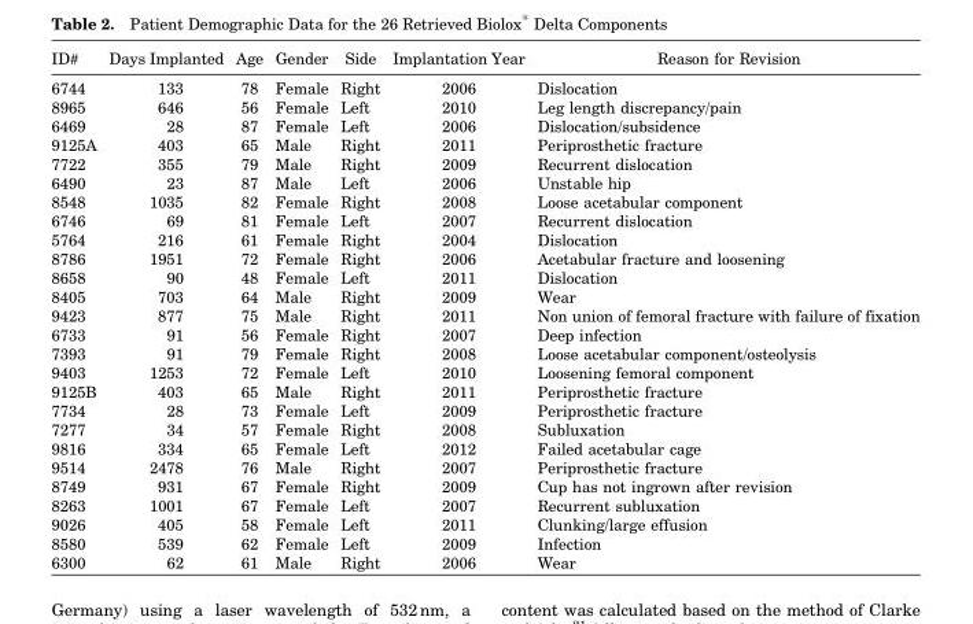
<table><thead><tr><td>ID#</td><td>Days Implanted</td><td>Age</td><td>Gender</td><td>Side</td><td>Implantation Year</td><td>Reason for Revision</td></tr></thead><tbody><tr><td>6744</td><td>133</td><td>78</td><td>Female</td><td>Right</td><td>2006</td><td>Dislocation</td></tr><tr><td>8965</td><td>646</td><td>56</td><td>Female</td><td>Left</td><td>2010</td><td>Leg length discrepancy/pain</td></tr><tr><td>6469</td><td>28</td><td>87</td><td>Female</td><td>Left</td><td>2006</td><td>Dislocation/subsidence</td></tr><tr><td>9125A</td><td>403</td><td>65</td><td>Male</td><td>Right</td><td>2011</td><td>Periprosthetic fracture</td></tr><tr><td>7722</td><td>355</td><td>79</td><td>Male</td><td>Right</td><td>2009</td><td>Recurrent dislocation</td></tr><tr><td>6490</td><td>23</td><td>87</td><td>Male</td><td>Left</td><td>2006</td><td>Unstable hip</td></tr><tr><td>8548</td><td>1035</td><td>82</td><td>Female</td><td>Right</td><td>2008</td><td>Loose acetabular component</td></tr><tr><td>6746</td><td>69</td><td>81</td><td>Female</td><td>Left</td><td>2007</td><td>Recurrent dislocation</td></tr><tr><td>5764</td><td>216</td><td>61</td><td>Female</td><td>Right</td><td>2004</td><td>Dislocation</td></tr><tr><td>8786</td><td>1951</td><td>72</td><td>Female</td><td>Right</td><td>2006</td><td>Acetabular fracture and loosening</td></tr><tr><td>8658</td><td>90</td><td>48</td><td>Female</td><td>Left</td><td>2011</td><td>Dislocation</td></tr><tr><td>8405</td><td>703</td><td>64</td><td>Male</td><td>Right</td><td>2009</td><td>Wear</td></tr><tr><td>9423</td><td>877</td><td>75</td><td>Male</td><td>Right</td><td>2011</td><td>Non union of femoral fracture with failure of fixation</td></tr><tr><td>6733</td><td>91</td><td>56</td><td>Female</td><td>Right</td><td>2007</td><td>Deep infection</td></tr><tr><td>7393</td><td>91</td><td>79</td><td>Female</td><td>Right</td><td>2008</td><td>Loose acetabular component/osteolysis</td></tr><tr><td>9403</td><td>1253</td><td>72</td><td>Female</td><td>Left</td><td>2010</td><td>Loosening femoral component</td></tr><tr><td>9125B</td><td>403</td><td>65</td><td>Male</td><td>Right</td><td>2011</td><td>Periprosthetic fracture</td></tr><tr><td>7734</td><td>28</td><td>73</td><td>Female</td><td>Left</td><td>2009</td><td>Periprosthetic fracture</td></tr><tr><td>7277</td><td>34</td><td>57</td><td>Female</td><td>Right</td><td>2008</td><td>Subluxation</td></tr><tr><td>9816</td><td>334</td><td>65</td><td>Female</td><td>Left</td><td>2012</td><td>Failed acetabular cage</td></tr><tr><td>9514</td><td>2478</td><td>76</td><td>Male</td><td>Right</td><td>2007</td><td>Periprosthetic fracture</td></tr><tr><td>8749</td><td>931</td><td>67</td><td>Female</td><td>Right</td><td>2009</td><td>Cup has not ingrown after revision</td></tr><tr><td>8263</td><td>1001</td><td>67</td><td>Female</td><td>Left</td><td>2007</td><td>Recurrent subluxation</td></tr><tr><td>9026</td><td>405</td><td>58</td><td>Female</td><td>Left</td><td>2011</td><td>Clunking/large effusion</td></tr><tr><td>8580</td><td>539</td><td>62</td><td>Female</td><td>Left</td><td>2009</td><td>Infection</td></tr><tr><td>6300</td><td>62</td><td>61</td><td>Male</td><td>Right</td><td>2006</td><td>Wear</td></tr></tbody></table>